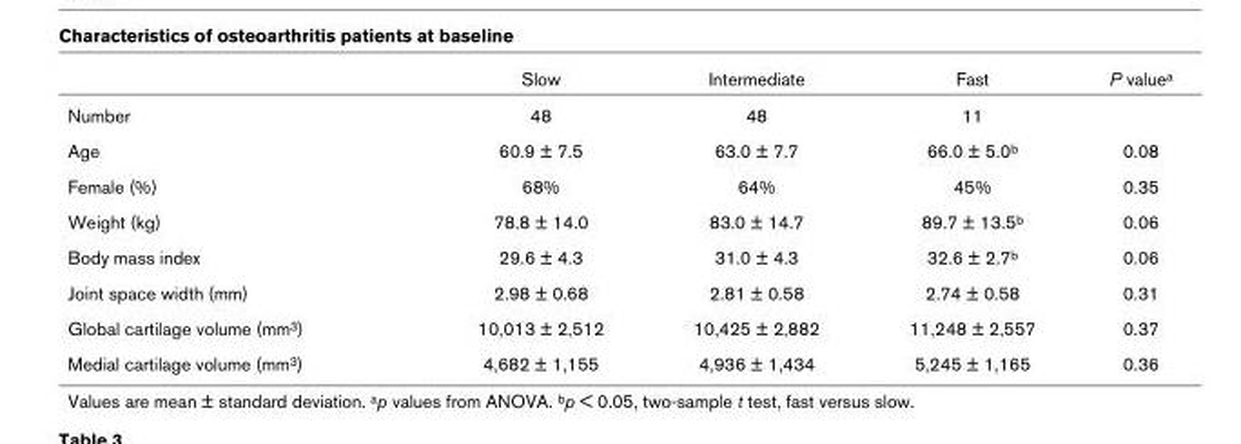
<table><thead><tr><td></td><td>Slow</td><td>Intermediate</td><td>Fast</td><td>P valuea</td></tr></thead><tbody><tr><td>Number</td><td>48</td><td>48</td><td>11</td><td></td></tr><tr><td>Age</td><td>60.9 ± 7.5</td><td>63.0 ± 7.7</td><td>66.0 ± 5.0b</td><td>0.08</td></tr><tr><td>Female (%)</td><td>68%</td><td>64%</td><td>45%</td><td>0.35</td></tr><tr><td>Weight (kg)</td><td>78.8 ± 14.0</td><td>83.0 ± 14.7</td><td>89.7 ± 13.5b</td><td>0.06</td></tr><tr><td>Body mass index</td><td>29.6 ± 4.3</td><td>31.0 ± 4.3</td><td>32.6 ± 2.7b</td><td>0.06</td></tr><tr><td>Joint space width (mm)</td><td>2.98 ± 0.68</td><td>2.81 ± 0.58</td><td>2.74 ± 0.58</td><td>0.31</td></tr><tr><td>Global cartilage volume (mm3)</td><td>10,013 ± 2,512</td><td>10,425 ± 2,882</td><td>11,248 ± 2,557</td><td>0.37</td></tr><tr><td>Medial cartilage volume (mm3)</td><td>4,682 ± 1,155</td><td>4,936 ± 1,434</td><td>5,245 ± 1,165</td><td>0.36</td></tr></tbody></table>